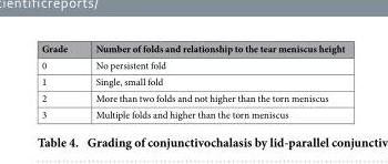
<table><thead><tr><td>Grade</td><td>Number of folds and relationship to the tear meniscus height</td></tr></thead><tbody><tr><td>0</td><td>No persistent fold</td></tr><tr><td>1</td><td>Single, small fold</td></tr><tr><td>2</td><td>More than two folds and not higher than the torn meniscus</td></tr><tr><td>3</td><td>Multiple folds and higher than the torn meniscus</td></tr></tbody></table>